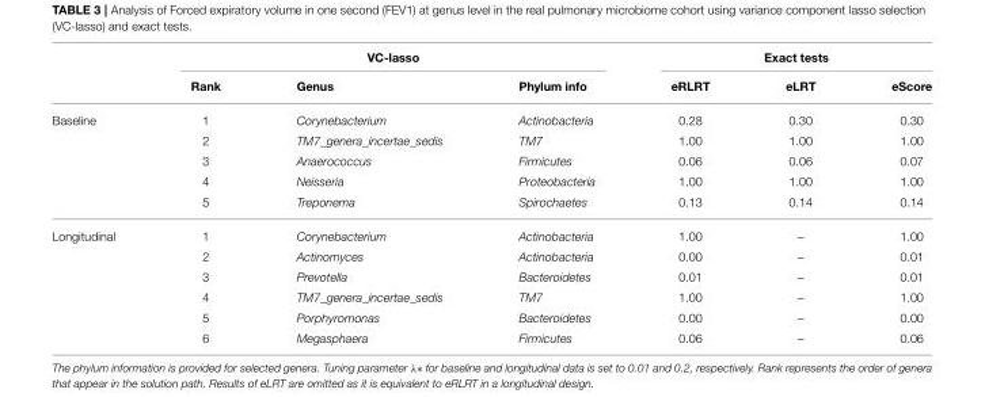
<table><thead><tr><td rowspan="2"></td><td colspan="3">VC-lasso</td><td colspan="3">Exact tests</td></tr><tr><td>Rank</td><td>Genus</td><td>Phylum info</td><td>eRLRT</td><td>eLRT</td><td>eScore</td></tr></thead><tbody><tr><td rowspan="5">Baseline</td><td>1</td><td>Corynebacterium</td><td>Actinobacteria</td><td>0.28</td><td>0.30</td><td>0.30</td></tr><tr><td>2</td><td>TM7_genera_incertae_sedis</td><td>TM7</td><td>1.00</td><td>1.00</td><td>1.00</td></tr><tr><td>3</td><td>Anaerococcus</td><td>Firmicutes</td><td>0.06</td><td>0.06</td><td>0.07</td></tr><tr><td>4</td><td>Neisseria</td><td>Proteobacteria</td><td>1.00</td><td>1.00</td><td>1.00</td></tr><tr><td>5</td><td>Treponema</td><td>Spirochaetes</td><td>0.13</td><td>0.14</td><td>0.14</td></tr><tr><td rowspan="6">Longitudinal</td><td>1</td><td>Corynebacterium</td><td>Actinobacteria</td><td>1.00</td><td>–</td><td>1.00</td></tr><tr><td>2</td><td>Actinomyces</td><td>Actinobacteria</td><td>0.00</td><td>–</td><td>0.01</td></tr><tr><td>3</td><td>Prevotella</td><td>Bacteroidetes</td><td>0.01</td><td>–</td><td>0.01</td></tr><tr><td>4</td><td>TM7_genera_incertae_sedis</td><td>TM7</td><td>1.00</td><td>–</td><td>1.00</td></tr><tr><td>5</td><td>Porphyromonas</td><td>Bacteroidetes</td><td>0.00</td><td>–</td><td>0.00</td></tr><tr><td>6</td><td>Megasphaera</td><td>Firmicutes</td><td>0.06</td><td>–</td><td>0.06</td></tr></tbody></table>